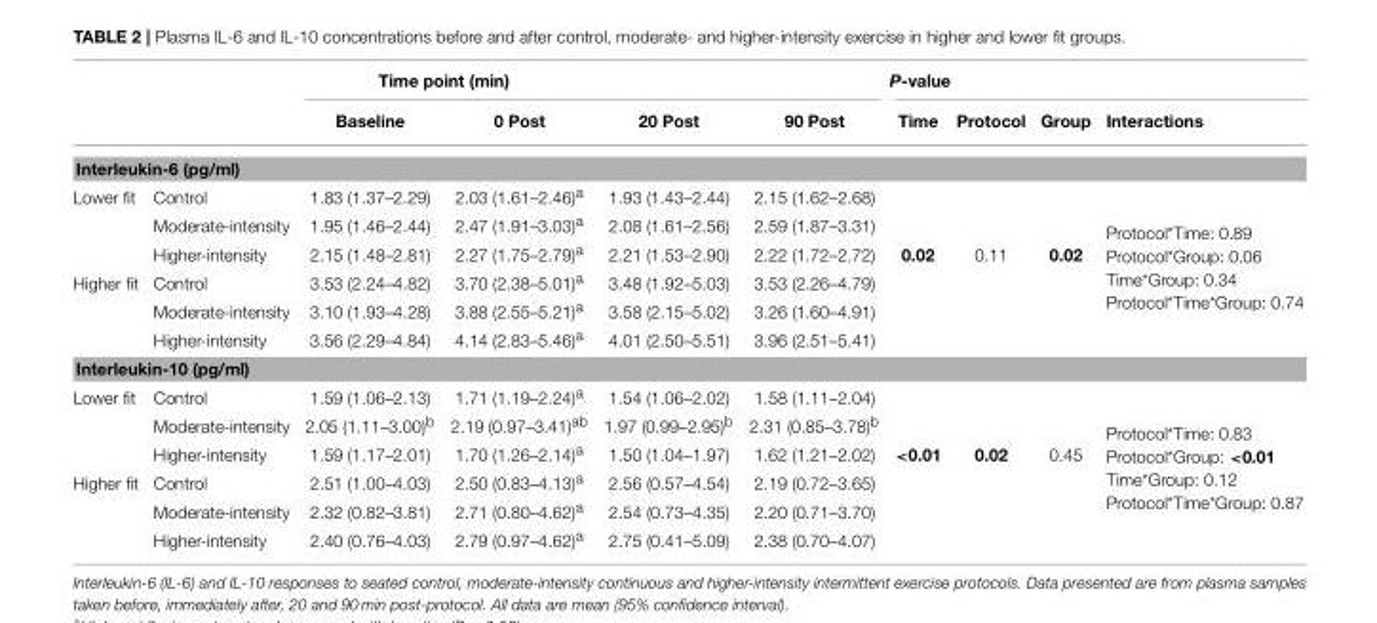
<table><thead><tr><td rowspan="2"></td><td rowspan="2"></td><td colspan="4">Time point (min)</td><td colspan="4">P-value</td></tr><tr><td>Baseline</td><td>0 Post</td><td>20 Post</td><td>90 Post</td><td>Time</td><td>Protocol</td><td>Group</td><td>Interactions</td></tr></thead><tbody><tr><td colspan="10">Interleukin-6 (pg/ml)</td></tr><tr><td rowspan="3">Lower fit</td><td>Control</td><td>1.83 (1.37–2.29)</td><td>2.03 (1.61–2.46)<sup>a</sup></td><td>1.93 (1.43–2.44)</td><td>2.15 (1.62–2.68)</td><td></td><td></td><td></td><td rowspan="6">Protocol*Time: 0.89 Protocol*Group: 0.06 Time*Group: 0.34 Protocol*Time*Group: 0.74</td></tr><tr><td>Moderate-intensity</td><td>1.95 (1.46–2.44)</td><td>2.47 (1.91–3.03)<sup>a</sup></td><td>2.08 (1.61–2.56)</td><td>2.59 (1.87–3.31)</td><td></td><td></td><td></td></tr><tr><td>Higher-intensity</td><td>2.15 (1.48–2.81)</td><td>2.27 (1.75–2.79)<sup>a</sup></td><td>2.21 (1.53–2.90)</td><td>2.22 (1.72–2.72)</td><td>0.02</td><td>0.11</td><td>0.02</td></tr><tr><td rowspan="3">Higher fit</td><td>Control</td><td>3.53 (2.24–4.82)</td><td>3.70 (2.38–5.01)<sup>a</sup></td><td>3.48 (1.92–5.03)</td><td>3.53 (2.26–4.79)</td><td></td><td></td><td></td></tr><tr><td>Moderate-intensity</td><td>3.10 (1.93–4.28)</td><td>3.88 (2.55–5.21)<sup>a</sup></td><td>3.58 (2.15–5.02)</td><td>3.26 (1.60–4.91)</td><td></td><td></td><td></td></tr><tr><td>Higher-intensity</td><td>3.56 (2.29–4.84)</td><td>4.14 (2.83–5.46)<sup>a</sup></td><td>4.01 (2.50–5.51)</td><td>3.96 (2.51–5.41)</td><td></td><td></td><td></td></tr><tr><td colspan="10">Interleukin-10 (pg/ml)</td></tr><tr><td rowspan="3">Lower fit</td><td>Control</td><td>1.59 (1.06–2.13)</td><td>1.71 (1.19–2.24)<sup>a</sup></td><td>1.54 (1.06–2.02)</td><td>1.58 (1.11–2.04)</td><td></td><td></td><td></td><td rowspan="6">Protocol*Time: 0.83 Protocol*Group: &lt;0.01 Time*Group: 0.12 Protocol*Time*Group: 0.87</td></tr><tr><td>Moderate-intensity</td><td>2.05 (1.11–3.00)<sup>b</sup></td><td>2.19 (0.97–3.41)<sup>ab</sup></td><td>1.97 (0.99–2.95)<sup>b</sup></td><td>2.31 (0.85–3.78)<sup>b</sup></td><td></td><td></td><td></td></tr><tr><td>Higher-intensity</td><td>1.59 (1.17–2.01)</td><td>1.70 (1.26–2.14)<sup>a</sup></td><td>1.50 (1.04–1.97)</td><td>1.62 (1.21–2.02)</td><td>&lt;0.01</td><td>0.02</td><td>0.45</td></tr><tr><td rowspan="3">Higher fit</td><td>Control</td><td>2.51 (1.00–4.03)</td><td>2.50 (0.83–4.13)<sup>a</sup></td><td>2.56 (0.57–4.54)</td><td>2.19 (0.72–3.65)</td><td></td><td></td><td></td></tr><tr><td>Moderate-intensity</td><td>2.32 (0.82–3.81)</td><td>2.71 (0.80–4.62)<sup>a</sup></td><td>2.54 (0.73–4.35)</td><td>2.20 (0.71–3.70)</td><td></td><td></td><td></td></tr><tr><td>Higher-intensity</td><td>2.40 (0.76–4.03)</td><td>2.79 (0.97–4.62)<sup>a</sup></td><td>2.75 (0.41–5.09)</td><td>2.38 (0.70–4.07)</td><td></td><td></td><td></td></tr></tbody></table>